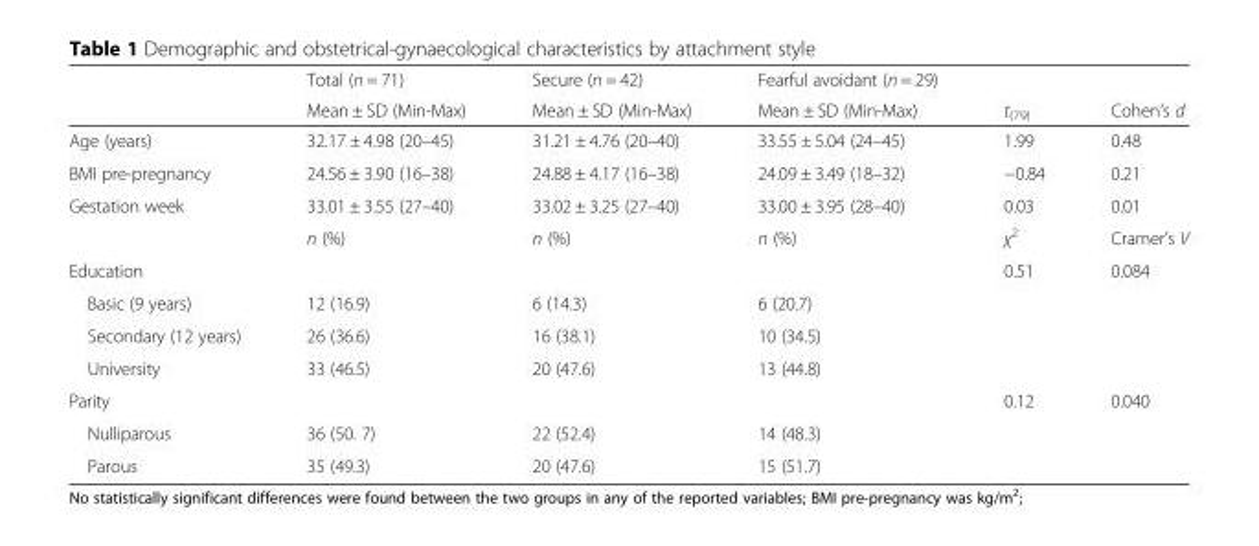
<table><thead><tr><td rowspan="2"></td><td rowspan="2">Total (n = 71) Mean ± SD (Min-Max)</td><td rowspan="2">Secure (n = 42) Mean ± SD (Min-Max)</td><td rowspan="2">Fearful avoidant (n = 29) Mean ± SD (Min-Max)</td><td rowspan="2">t<sub>(79)</sub></td><td rowspan="2">Cohen’s d</td></tr><tr></tr></thead><tbody><tr><td>Age (years)</td><td>32.17 ± 4.98 (20–45)</td><td>31.21 ± 4.76 (20–40)</td><td>33.55 ± 5.04 (24–45)</td><td>1.99</td><td>0.48</td></tr><tr><td>BMI pre-pregnancy</td><td>24.56 ± 3.90 (16–38)</td><td>24.88 ± 4.17 (16–38)</td><td>24.09 ± 3.49 (18–32)</td><td>−0.84</td><td>0.21</td></tr><tr><td rowspan="2">Gestation week</td><td>33.01 ± 3.55 (27–40)</td><td>33.02 ± 3.25 (27–40)</td><td>33.00 ± 3.95 (28–40)</td><td>0.03</td><td>0.01</td></tr><tr><td>n (%)</td><td>n (%)</td><td>n (%)</td><td>χ<sup>2</sup></td><td>Cramer’s V</td></tr><tr><td>Education</td><td></td><td></td><td></td><td>0.51</td><td>0.084</td></tr><tr><td>Basic (9 years)</td><td>12 (16.9)</td><td>6 (14.3)</td><td>6 (20.7)</td><td></td><td></td></tr><tr><td>Secondary (12 years)</td><td>26 (36.6)</td><td>16 (38.1)</td><td>10 (34.5)</td><td></td><td></td></tr><tr><td>University</td><td>33 (46.5)</td><td>20 (47.6)</td><td>13 (44.8)</td><td></td><td></td></tr><tr><td>Parity</td><td></td><td></td><td></td><td>0.12</td><td>0.040</td></tr><tr><td>Nulliparous</td><td>36 (50. 7)</td><td>22 (52.4)</td><td>14 (48.3)</td><td></td><td></td></tr><tr><td>Parous</td><td>35 (49.3)</td><td>20 (47.6)</td><td>15 (51.7)</td><td></td><td></td></tr></tbody></table>